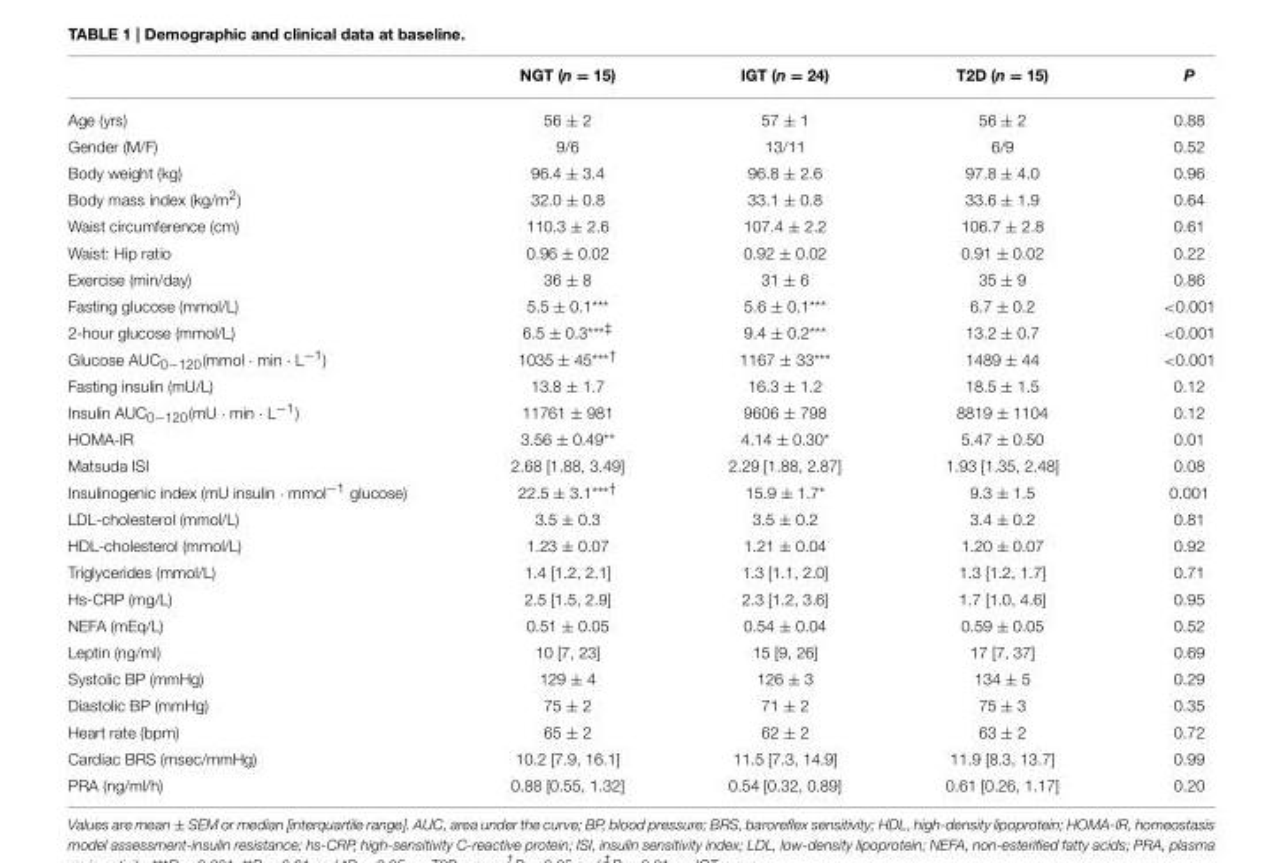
<table><thead><tr><td></td><td>NGT (n = 15)</td><td>IGT (n = 24)</td><td>T2D (n = 15)</td><td>P</td></tr></thead><tbody><tr><td>Age (yrs)</td><td>56 ± 2</td><td>57 ± 1</td><td>56 ± 2</td><td>0.88</td></tr><tr><td>Gender (M/F)</td><td>9/6</td><td>13/11</td><td>6/9</td><td>0.52</td></tr><tr><td>Body weight (kg)</td><td>96.4 ± 3.4</td><td>96.8 ± 2.6</td><td>97.8 ± 4.0</td><td>0.96</td></tr><tr><td>Body mass index (kg/m<sup>2</sup>)</td><td>32.0 ± 0.8</td><td>33.1 ± 0.8</td><td>33.6 ± 1.9</td><td>0.64</td></tr><tr><td>Waist circumference (cm)</td><td>110.3 ± 2.6</td><td>107.4 ± 2.2</td><td>106.7 ± 2.8</td><td>0.61</td></tr><tr><td>Waist: Hip ratio</td><td>0.96 ± 0.02</td><td>0.92 ± 0.02</td><td>0.91 ± 0.02</td><td>0.22</td></tr><tr><td>Exercise (min/day)</td><td>36 ± 8</td><td>31 ± 6</td><td>35 ± 9</td><td>0.86</td></tr><tr><td>Fasting glucose (mmol/L)</td><td>5.5 ± 0.1***</td><td>5.6 ± 0.1***</td><td>6.7 ± 0.2</td><td>&lt;0.001</td></tr><tr><td>2-hour glucose (mmol/L)</td><td>6.5 ± 0.3<sup>***‡</sup></td><td>9.4 ± 0.2***</td><td>13.2 ± 0.7</td><td>&lt;0.001</td></tr><tr><td>Glucose AUC<sub>0−120</sub>(mmol · min · L<sup>−1</sup>)</td><td>1035 ± 45<sup>***†</sup></td><td>1167 ± 33***</td><td>1489 ± 44</td><td>&lt;0.001</td></tr><tr><td>Fasting insulin (mU/L)</td><td>13.8 ± 1.7</td><td>16.3 ± 1.2</td><td>18.5 ± 1.5</td><td>0.12</td></tr><tr><td>Insulin AUC<sub>0−120</sub>(mU · min · L<sup>−1</sup>)</td><td>11761 ± 981</td><td>9606 ± 798</td><td>8819 ± 1104</td><td>0.12</td></tr><tr><td>HOMA-IR</td><td>3.56 ± 0.49**</td><td>4.14 ± 0.30*</td><td>5.47 ± 0.50</td><td>0.01</td></tr><tr><td>Matsuda ISI</td><td>2.68 [1.88, 3.49]</td><td>2.29 [1.88, 2.87]</td><td>1.93 [1.35, 2.48]</td><td>0.08</td></tr><tr><td>Insulinogenic index (mU insulin · mmol<sup>−1</sup> glucose)</td><td>22.5 ± 3.1<sup>***†</sup></td><td>15.9 ± 1.7*</td><td>9.3 ± 1.5</td><td>0.001</td></tr><tr><td>LDL-cholesterol (mmol/L)</td><td>3.5 ± 0.3</td><td>3.5 ± 0.2</td><td>3.4 ± 0.2</td><td>0.81</td></tr><tr><td>HDL-cholesterol (mmol/L)</td><td>1.23 ± 0.07</td><td>1.21 ± 0.04</td><td>1.20 ± 0.07</td><td>0.92</td></tr><tr><td>Triglycerides (mmol/L)</td><td>1.4 [1.2, 2.1]</td><td>1.3 [1.1, 2.0]</td><td>1.3 [1.2, 1.7]</td><td>0.71</td></tr><tr><td>Hs-CRP (mg/L)</td><td>2.5 [1.5, 2.9]</td><td>2.3 [1.2, 3.6]</td><td>1.7 [1.0, 4.6]</td><td>0.95</td></tr><tr><td>NEFA (mEq/L)</td><td>0.51 ± 0.05</td><td>0.54 ± 0.04</td><td>0.59 ± 0.05</td><td>0.52</td></tr><tr><td>Leptin (ng/ml)</td><td>10 [7, 23]</td><td>15 [9, 26]</td><td>17 [7, 37]</td><td>0.69</td></tr><tr><td>Systolic BP (mmHg)</td><td>129 ± 4</td><td>126 ± 3</td><td>134 ± 5</td><td>0.29</td></tr><tr><td>Diastolic BP (mmHg)</td><td>75 ± 2</td><td>71 ± 2</td><td>75 ± 3</td><td>0.35</td></tr><tr><td>Heart rate (bpm)</td><td>65 ± 2</td><td>62 ± 2</td><td>63 ± 2</td><td>0.72</td></tr><tr><td>Cardiac BRS (msec/mmHg)</td><td>10.2 [7.9, 16.1]</td><td>11.5 [7.3, 14.9]</td><td>11.9 [8.3, 13.7]</td><td>0.99</td></tr><tr><td>PRA (ng/ml/h)</td><td>0.88 [0.55, 1.32]</td><td>0.54 [0.32, 0.89]</td><td>0.61 [0.26, 1.17]</td><td>0.20</td></tr></tbody></table>